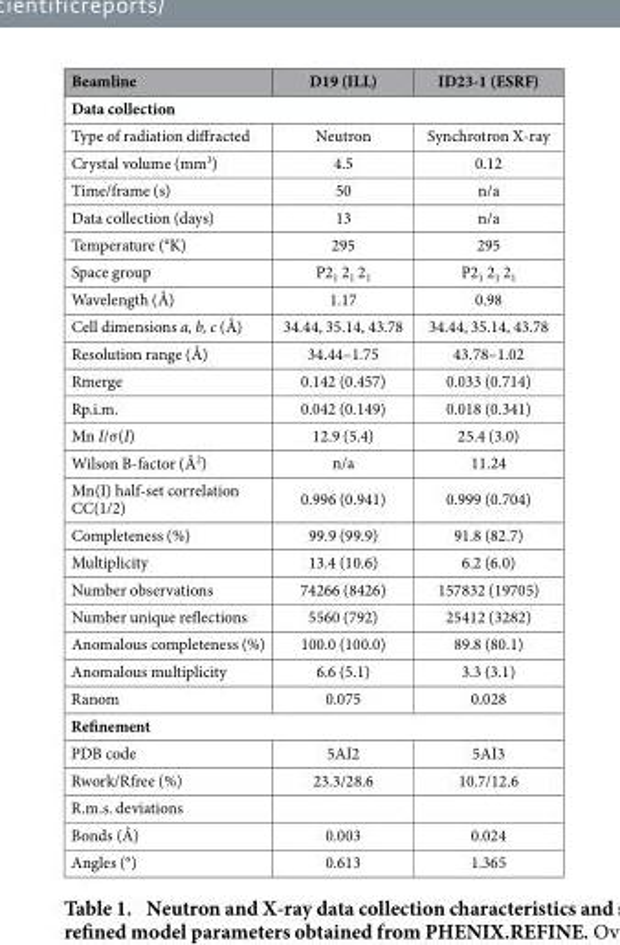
<table><thead><tr><td>Beamline</td><td>D19 (ILL)</td><td>ID23-1 (ESRF)</td></tr></thead><tbody><tr><td colspan="3">Data collection</td></tr><tr><td>Type of radiation diffracted</td><td>Neutron</td><td>Synchrotron X-ray</td></tr><tr><td>Crystal volume (mm<sup>3</sup>)</td><td>4.5</td><td>0.12</td></tr><tr><td>Time/frame (s)</td><td>50</td><td>n/a</td></tr><tr><td>Data collection (days)</td><td>13</td><td>n/a</td></tr><tr><td>Temperature (°K)</td><td>295</td><td>295</td></tr><tr><td>Space group</td><td>P2<sub>1</sub> 2<sub>1</sub> 2<sub>1</sub></td><td>P2<sub>1</sub> 2<sub>1</sub> 2<sub>1</sub></td></tr><tr><td>Wavelength (Å)</td><td>1.17</td><td>0.98</td></tr><tr><td>Cell dimensions a, b, c (Å)</td><td>34.44, 35.14, 43.78</td><td>34.44, 35.14, 43.78</td></tr><tr><td>Resolution range (Å)</td><td>34.44–1.75</td><td>43.78–1.02</td></tr><tr><td>Rmerge</td><td>0.142 (0.457)</td><td>0.033 (0.714)</td></tr><tr><td>Rp.i.m.</td><td>0.042 (0.149)</td><td>0.018 (0.341)</td></tr><tr><td>Mn I/σ (I)</td><td>12.9 (5.4)</td><td>25.4 (3.0)</td></tr><tr><td>Wilson B-factor (Å<sup>2</sup>)</td><td>n/a</td><td>11.24</td></tr><tr><td>Mn(I) half-set correlation CC(1/2)</td><td>0.996 (0.941)</td><td>0.999 (0.704)</td></tr><tr><td>Completeness (%)</td><td>99.9 (99.9)</td><td>91.8 (82.7)</td></tr><tr><td>Multiplicity</td><td>13.4 (10.6)</td><td>6.2 (6.0)</td></tr><tr><td>Number observations</td><td>74266 (8426)</td><td>157832 (19705)</td></tr><tr><td>Number unique reflections</td><td>5560 (792)</td><td>25412 (3282)</td></tr><tr><td>Anomalous completeness (%)</td><td>100.0 (100.0)</td><td>89.8 (80.1)</td></tr><tr><td>Anomalous multiplicity</td><td>6.6 (5.1)</td><td>3.3 (3.1)</td></tr><tr><td>Ranom</td><td>0.075</td><td>0.028</td></tr><tr><td colspan="3">Refinement</td></tr><tr><td>PDB code</td><td>5AI2</td><td>5AI3</td></tr><tr><td>Rwork/Rfree (%)</td><td>23.3/28.6</td><td>10.7/12.6</td></tr><tr><td colspan="3">R.m.s. deviations</td></tr><tr><td>Bonds (Å)</td><td>0.003</td><td>0.024</td></tr><tr><td>Angles (°)</td><td>0.613</td><td>1.365</td></tr></tbody></table>